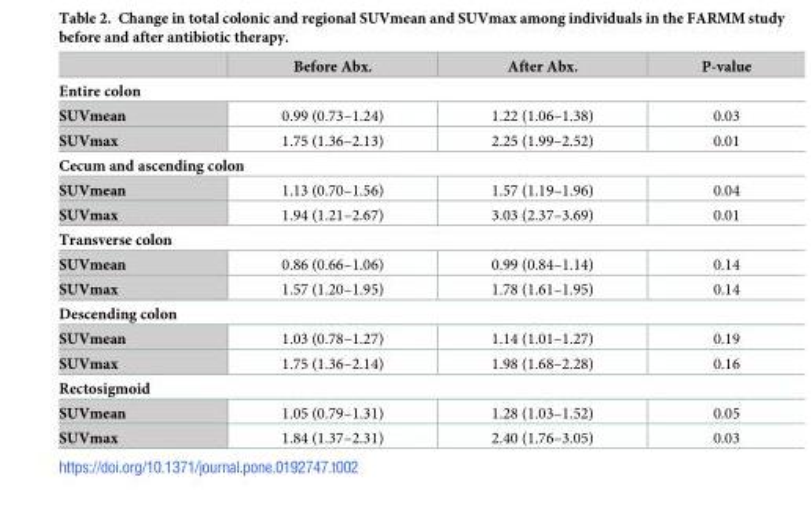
<table><thead><tr><td></td><td>Before Abx.</td><td>After Abx.</td><td>P-value</td></tr></thead><tbody><tr><td colspan="4">Entire colon</td></tr><tr><td>SUVmean</td><td>0.99 (0.73–1.24)</td><td>1.22 (1.06–1.38)</td><td>0.03</td></tr><tr><td>SUVmax</td><td>1.75 (1.36–2.13)</td><td>2.25 (1.99–2.52)</td><td>0.01</td></tr><tr><td colspan="4">Cecum and ascending colon</td></tr><tr><td>SUVmean</td><td>1.13 (0.70–1.56)</td><td>1.57 (1.19–1.96)</td><td>0.04</td></tr><tr><td>SUVmax</td><td>1.94 (1.21–2.67)</td><td>3.03 (2.37–3.69)</td><td>0.01</td></tr><tr><td colspan="4">Transverse colon</td></tr><tr><td>SUVmean</td><td>0.86 (0.66–1.06)</td><td>0.99 (0.84–1.14)</td><td>0.14</td></tr><tr><td>SUVmax</td><td>1.57 (1.20–1.95)</td><td>1.78 (1.61–1.95)</td><td>0.14</td></tr><tr><td colspan="4">Descending colon</td></tr><tr><td>SUVmean</td><td>1.03 (0.78–1.27)</td><td>1.14 (1.01–1.27)</td><td>0.19</td></tr><tr><td>SUVmax</td><td>1.75 (1.36–2.14)</td><td>1.98 (1.68–2.28)</td><td>0.16</td></tr><tr><td colspan="4">Rectosigmoid</td></tr><tr><td>SUVmean</td><td>1.05 (0.79–1.31)</td><td>1.28 (1.03–1.52)</td><td>0.05</td></tr><tr><td>SUVmax</td><td>1.84 (1.37–2.31)</td><td>2.40 (1.76–3.05)</td><td>0.03</td></tr></tbody></table>